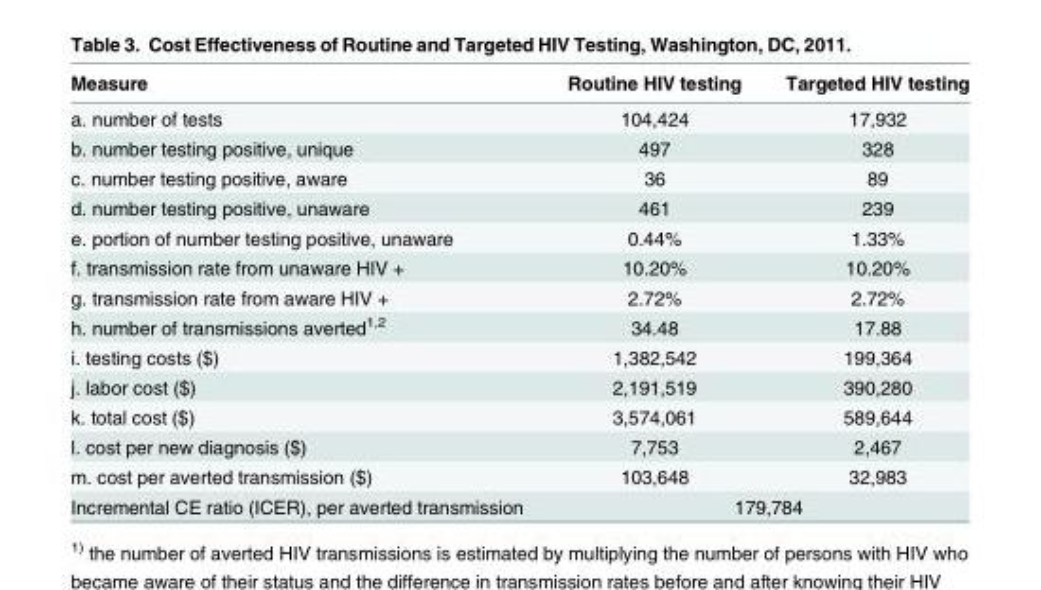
<table><thead><tr><td>Measure</td><td>Routine HIV testing</td><td>Targeted HIV testing</td></tr></thead><tbody><tr><td>a. number of tests</td><td>104,424</td><td>17,932</td></tr><tr><td>b. number testing positive, unique</td><td>497</td><td>328</td></tr><tr><td>c. number testing positive, aware</td><td>36</td><td>89</td></tr><tr><td>d. number testing positive, unaware</td><td>461</td><td>239</td></tr><tr><td>e. portion of number testing positive, unaware</td><td>0.44%</td><td>1.33%</td></tr><tr><td>f. transmission rate from unaware HIV +</td><td>10.20%</td><td>10.20%</td></tr><tr><td>g. transmission rate from aware HIV +</td><td>2.72%</td><td>2.72%</td></tr><tr><td>h. number of transmissions averted<sup>1,2</sup></td><td>34.48</td><td>17.88</td></tr><tr><td>i. testing costs ($)</td><td>1,382,542</td><td>199,364</td></tr><tr><td>j. labor cost ($)</td><td>2,191,519</td><td>390,280</td></tr><tr><td>k. total cost ($)</td><td>3,574,061</td><td>589,644</td></tr><tr><td>l. cost per new diagnosis ($)</td><td>7,753</td><td>2,467</td></tr><tr><td>m. cost per averted transmission ($)</td><td>103,648</td><td>32,983</td></tr><tr><td>Incremental CE ratio (ICER), per averted transmission</td><td colspan="2">179,784</td></tr></tbody></table>